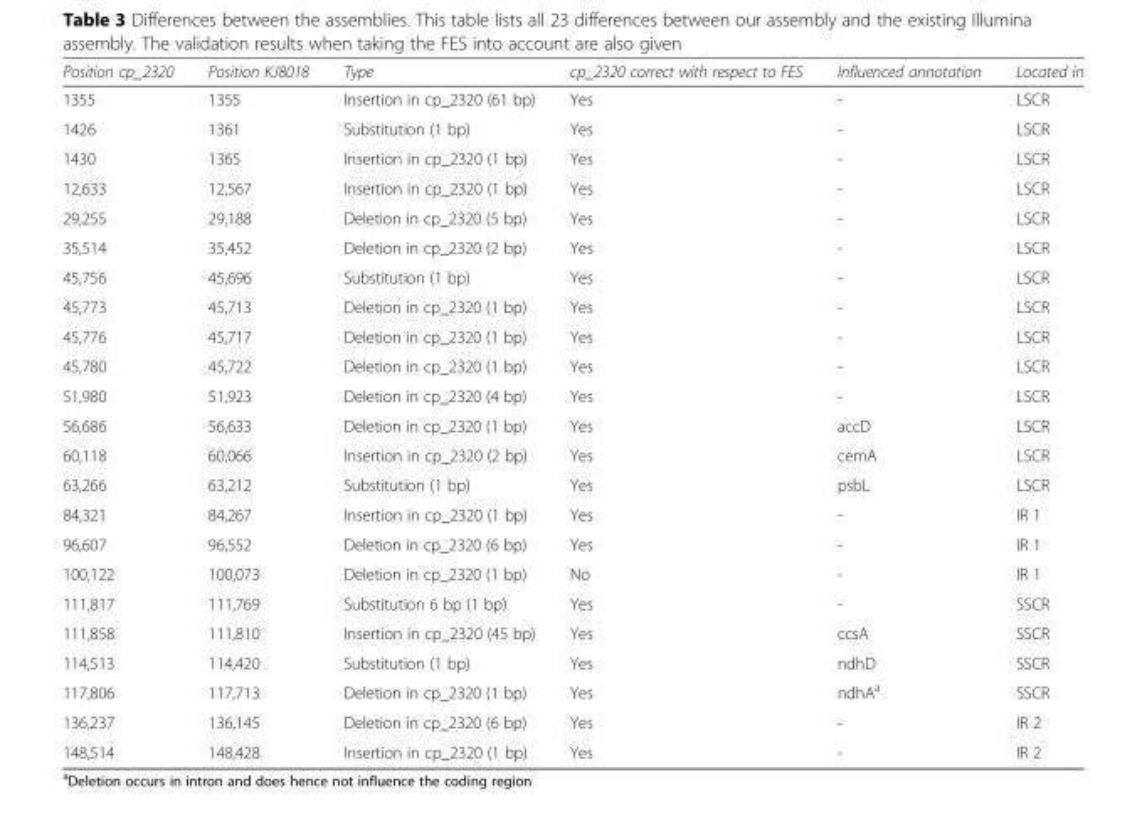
<table><thead><tr><td>Position cp_2320</td><td>Position KJ8018</td><td>Type</td><td>cp_2320 correct with respect to FES</td><td>Influenced annotation</td><td>Located in</td></tr></thead><tbody><tr><td>1355</td><td>1355</td><td>Insertion in cp_2320 (61 bp)</td><td>Yes</td><td>-</td><td>LSCR</td></tr><tr><td>1426</td><td>1361</td><td>Substitution (1 bp)</td><td>Yes</td><td>-</td><td>LSCR</td></tr><tr><td>1430</td><td>1365</td><td>Insertion in cp_2320 (1 bp)</td><td>Yes</td><td>-</td><td>LSCR</td></tr><tr><td>12,633</td><td>12,567</td><td>Insertion in cp_2320 (1 bp)</td><td>Yes</td><td>-</td><td>LSCR</td></tr><tr><td>29,255</td><td>29,188</td><td>Deletion in cp_2320 (5 bp)</td><td>Yes</td><td>-</td><td>LSCR</td></tr><tr><td>35,514</td><td>35,452</td><td>Deletion in cp_2320 (2 bp)</td><td>Yes</td><td>-</td><td>LSCR</td></tr><tr><td>45,756</td><td>45,696</td><td>Substitution (1 bp)</td><td>Yes</td><td>-</td><td>LSCR</td></tr><tr><td>45,773</td><td>45,713</td><td>Deletion in cp_2320 (1 bp)</td><td>Yes</td><td>-</td><td>LSCR</td></tr><tr><td>45,776</td><td>45,717</td><td>Deletion in cp_2320 (1 bp)</td><td>Yes</td><td>-</td><td>LSCR</td></tr><tr><td>45,780</td><td>45,722</td><td>Deletion in cp_2320 (1 bp)</td><td>Yes</td><td>-</td><td>LSCR</td></tr><tr><td>51,980</td><td>51,923</td><td>Deletion in cp_2320 (4 bp)</td><td>Yes</td><td>-</td><td>LSCR</td></tr><tr><td>56,686</td><td>56,633</td><td>Deletion in cp_2320 (1 bp)</td><td>Yes</td><td>accD</td><td>LSCR</td></tr><tr><td>60,118</td><td>60,066</td><td>Insertion in cp_2320 (2 bp)</td><td>Yes</td><td>cemA</td><td>LSCR</td></tr><tr><td>63,266</td><td>63,212</td><td>Substitution (1 bp)</td><td>Yes</td><td>psbL</td><td>LSCR</td></tr><tr><td>84,321</td><td>84,267</td><td>Insertion in cp_2320 (1 bp)</td><td>Yes</td><td>-</td><td>IR 1</td></tr><tr><td>96,607</td><td>96,552</td><td>Deletion in cp_2320 (6 bp)</td><td>Yes</td><td>-</td><td>IR 1</td></tr><tr><td>100,122</td><td>100,073</td><td>Deletion in cp_2320 (1 bp)</td><td>No</td><td>-</td><td>IR 1</td></tr><tr><td>111,817</td><td>111,769</td><td>Substitution 6 bp (1 bp)</td><td>Yes</td><td>-</td><td>SSCR</td></tr><tr><td>111,858</td><td>111,810</td><td>Insertion in cp_2320 (45 bp)</td><td>Yes</td><td>ccsA</td><td>SSCR</td></tr><tr><td>114,513</td><td>114,420</td><td>Substitution (1 bp)</td><td>Yes</td><td>ndhD</td><td>SSCR</td></tr><tr><td>117,806</td><td>117,713</td><td>Deletion in cp_2320 (1 bp)</td><td>Yes</td><td>ndhA<sup>a</sup></td><td>SSCR</td></tr><tr><td>136,237</td><td>136,145</td><td>Deletion in cp_2320 (6 bp)</td><td>Yes</td><td>-</td><td>IR 2</td></tr><tr><td>148,514</td><td>148,428</td><td>Insertion in cp_2320 (1 bp)</td><td>Yes</td><td>-</td><td>IR 2</td></tr></tbody></table>